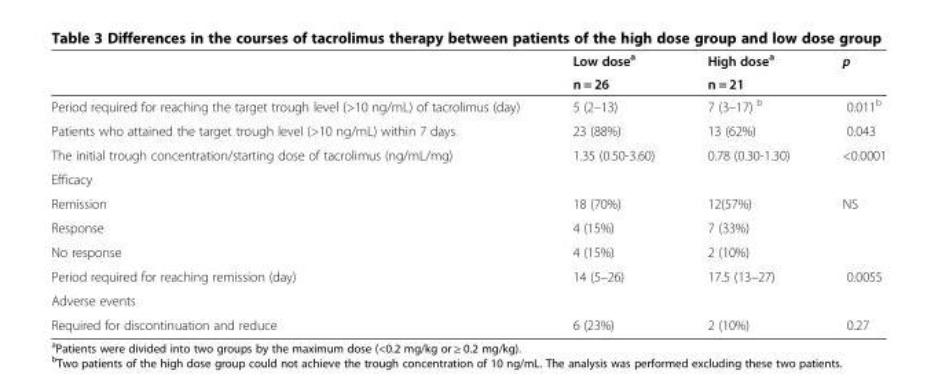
<table><thead><tr><td rowspan="2"></td><td rowspan="2">Low dose<sup>a</sup> n = 26</td><td rowspan="2">High dose<sup>a</sup> n = 21</td><td rowspan="2">p</td></tr><tr></tr></thead><tbody><tr><td>Period required for reaching the target trough level (&gt;10 ng/mL) of tacrolimus (day)</td><td>5 (2–13)</td><td>7 (3–17) <sup>b</sup></td><td>0.011<sup>b</sup></td></tr><tr><td>Patients who attained the target trough level (&gt;10 ng/mL) within 7 days</td><td>23 (88%)</td><td>13 (62%)</td><td>0.043</td></tr><tr><td>The initial trough concentration/starting dose of tacrolimus (ng/mL/mg)</td><td>1.35 (0.50-3.60)</td><td>0.78 (0.30-1.30)</td><td>&lt;0.0001</td></tr><tr><td colspan="4">Efficacy</td></tr><tr><td>Remission</td><td>18 (70%)</td><td>12(57%)</td><td>NS</td></tr><tr><td>Response</td><td>4 (15%)</td><td>7 (33%)</td><td></td></tr><tr><td>No response</td><td>4 (15%)</td><td>2 (10%)</td><td></td></tr><tr><td>Period required for reaching remission (day)</td><td>14 (5–26)</td><td>17.5 (13–27)</td><td>0.0055</td></tr><tr><td colspan="4">Adverse events</td></tr><tr><td>Required for discontinuation and reduce</td><td>6 (23%)</td><td>2 (10%)</td><td>0.27</td></tr></tbody></table>